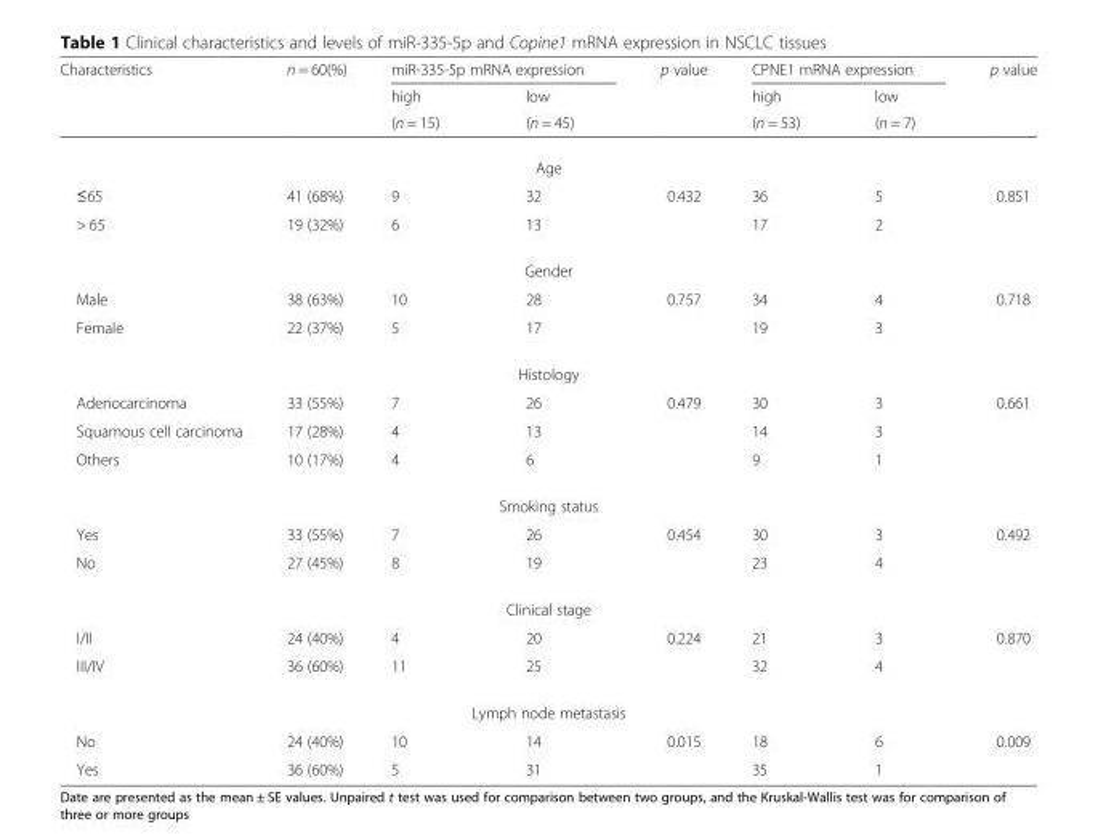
<table><thead><tr><td rowspan="3">Characteristics</td><td rowspan="3">n = 60(%)</td><td colspan="2">miR-335-5p mRNA expression</td><td rowspan="3">p value</td><td colspan="2">CPNE1 mRNA expression</td><td rowspan="3">p value</td></tr><tr><td rowspan="2">high (n = 15)</td><td rowspan="2">low (n = 45)</td><td rowspan="2">high (n = 53)</td><td rowspan="2">low (n = 7)</td></tr><tr></tr></thead><tbody><tr><td colspan="8">Age</td></tr><tr><td>≤65</td><td>41 (68%)</td><td>9</td><td>32</td><td rowspan="2">0.432</td><td>36</td><td>5</td><td rowspan="2">0.851</td></tr><tr><td>&gt; 65</td><td>19 (32%)</td><td>6</td><td>13</td><td>17</td><td>2</td></tr><tr><td colspan="8">Gender</td></tr><tr><td>Male</td><td>38 (63%)</td><td>10</td><td>28</td><td rowspan="2">0.757</td><td>34</td><td>4</td><td rowspan="2">0.718</td></tr><tr><td>Female</td><td>22 (37%)</td><td>5</td><td>17</td><td>19</td><td>3</td></tr><tr><td colspan="8">Histology</td></tr><tr><td>Adenocarcinoma</td><td>33 (55%)</td><td>7</td><td>26</td><td rowspan="3">0.479</td><td>30</td><td>3</td><td rowspan="3">0.661</td></tr><tr><td>Squamous cell carcinoma</td><td>17 (28%)</td><td>4</td><td>13</td><td>14</td><td>3</td></tr><tr><td>Others</td><td>10 (17%)</td><td>4</td><td>6</td><td>9</td><td>1</td></tr><tr><td colspan="8">Smoking status</td></tr><tr><td>Yes</td><td>33 (55%)</td><td>7</td><td>26</td><td rowspan="2">0.454</td><td>30</td><td>3</td><td rowspan="2">0.492</td></tr><tr><td>No</td><td>27 (45%)</td><td>8</td><td>19</td><td>23</td><td>4</td></tr><tr><td colspan="8">Clinical stage</td></tr><tr><td>I/II</td><td>24 (40%)</td><td>4</td><td>20</td><td rowspan="2">0.224</td><td>21</td><td>3</td><td rowspan="2">0.870</td></tr><tr><td>III/IV</td><td>36 (60%)</td><td>11</td><td>25</td><td>32</td><td>4</td></tr><tr><td colspan="8">Lymph node metastasis</td></tr><tr><td>No</td><td>24 (40%)</td><td>10</td><td>14</td><td rowspan="2">0.015</td><td>18</td><td>6</td><td rowspan="2">0.009</td></tr><tr><td>Yes</td><td>36 (60%)</td><td>5</td><td>31</td><td>35</td><td>1</td></tr></tbody></table>